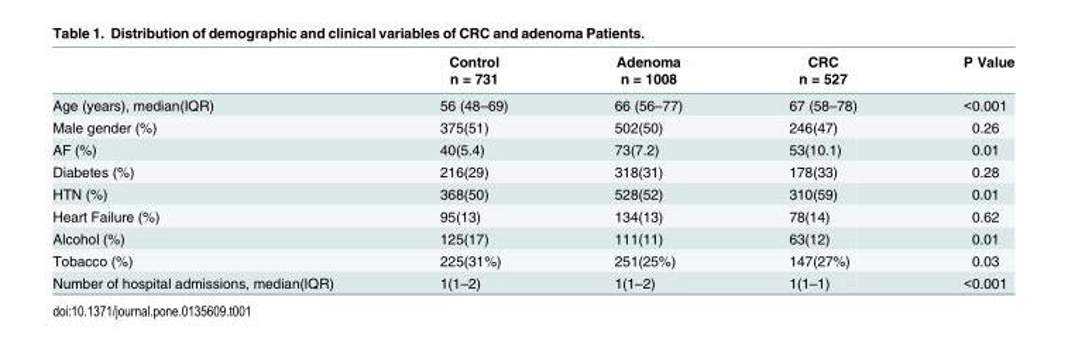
<table><thead><tr><td rowspan="2"></td><td rowspan="2">Control n = 731</td><td rowspan="2">Adenoma n = 1008</td><td rowspan="2">CRC n = 527</td><td rowspan="2">P Value</td></tr><tr></tr></thead><tbody><tr><td>Age (years), median(IQR)</td><td>56 (48–69)</td><td>66 (56–77)</td><td>67 (58–78)</td><td>&lt;0.001</td></tr><tr><td>Male gender (%)</td><td>375(51)</td><td>502(50)</td><td>246(47)</td><td>0.26</td></tr><tr><td>AF (%)</td><td>40(5.4)</td><td>73(7.2)</td><td>53(10.1)</td><td>0.01</td></tr><tr><td>Diabetes (%)</td><td>216(29)</td><td>318(31)</td><td>178(33)</td><td>0.28</td></tr><tr><td>HTN (%)</td><td>368(50)</td><td>528(52)</td><td>310(59)</td><td>0.01</td></tr><tr><td>Heart Failure (%)</td><td>95(13)</td><td>134(13)</td><td>78(14)</td><td>0.62</td></tr><tr><td>Alcohol (%)</td><td>125(17)</td><td>111(11)</td><td>63(12)</td><td>0.01</td></tr><tr><td>Tobacco (%)</td><td>225(31%)</td><td>251(25%)</td><td>147(27%)</td><td>0.03</td></tr><tr><td>Number of hospital admissions, median(IQR)</td><td>1(1–2)</td><td>1(1–2)</td><td>1(1–1)</td><td>&lt;0.001</td></tr></tbody></table>